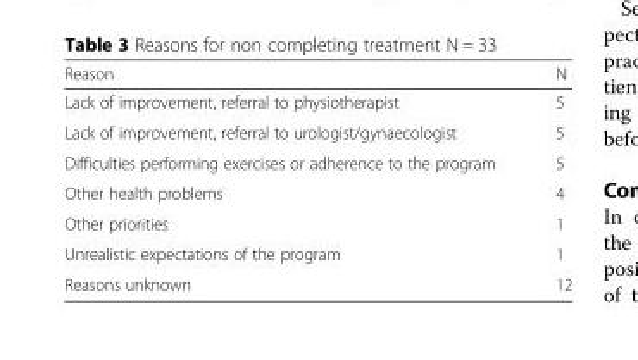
<table><thead><tr><td>Reason</td><td>N</td></tr></thead><tbody><tr><td>Lack of improvement, referral to physiotherapist</td><td>5</td></tr><tr><td>Lack of improvement, referral to urologist/gynaecologist</td><td>5</td></tr><tr><td>Difficulties performing exercises or adherence to the program</td><td>5</td></tr><tr><td>Other health problems</td><td>4</td></tr><tr><td>Other priorities</td><td>1</td></tr><tr><td>Unrealistic expectations of the program</td><td>1</td></tr><tr><td>Reasons unknown</td><td>12</td></tr></tbody></table>